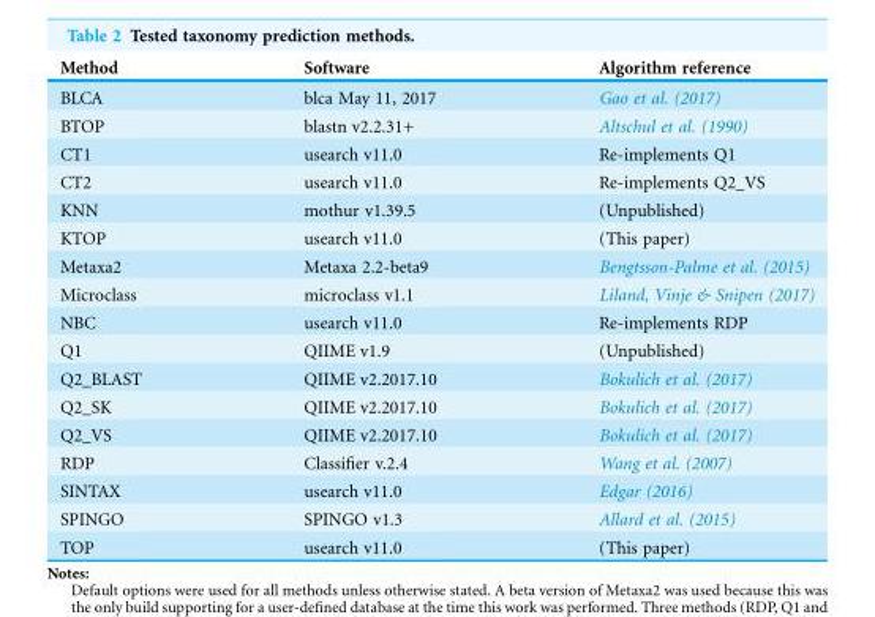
<table><thead><tr><td>Method</td><td>Software</td><td>Algorithm reference</td></tr></thead><tbody><tr><td>BLCA</td><td>blca May 11, 2017</td><td>Gao et al. (2017)</td></tr><tr><td>BTOP</td><td>blastn v2.2.31+</td><td>Altschul et al. (1990)</td></tr><tr><td>CT1</td><td>usearch v11.0</td><td>Re-implements Q1</td></tr><tr><td>CT2</td><td>usearch v11.0</td><td>Re-implements Q2_VS</td></tr><tr><td>KNN</td><td>mothur v1.39.5</td><td>(Unpublished)</td></tr><tr><td>KTOP</td><td>usearch v11.0</td><td>(This paper)</td></tr><tr><td>Metaxa2</td><td>Metaxa 2.2-beta9</td><td>Bengtsson-Palme et al. (2015)</td></tr><tr><td>Microclass</td><td>microclass v1.1</td><td>Liland, Vinje &amp; Snipen (2017)</td></tr><tr><td>NBC</td><td>usearch v11.0</td><td>Re-implements RDP</td></tr><tr><td>Q1</td><td>QIIME v1.9</td><td>(Unpublished)</td></tr><tr><td>Q2_BLAST</td><td>QIIME v2.2017.10</td><td>Bokulich et al. (2017)</td></tr><tr><td>Q2_SK</td><td>QIIME v2.2017.10</td><td>Bokulich et al. (2017)</td></tr><tr><td>Q2_VS</td><td>QIIME v2.2017.10</td><td>Bokulich et al. (2017)</td></tr><tr><td>RDP</td><td>Classifier v.2.4</td><td>Wang et al. (2007)</td></tr><tr><td>SINTAX</td><td>usearch v11.0</td><td>Edgar (2016)</td></tr><tr><td>SPINGO</td><td>SPINGO v1.3</td><td>Allard et al. (2015)</td></tr><tr><td>TOP</td><td>usearch v11.0</td><td>(This paper)</td></tr></tbody></table>